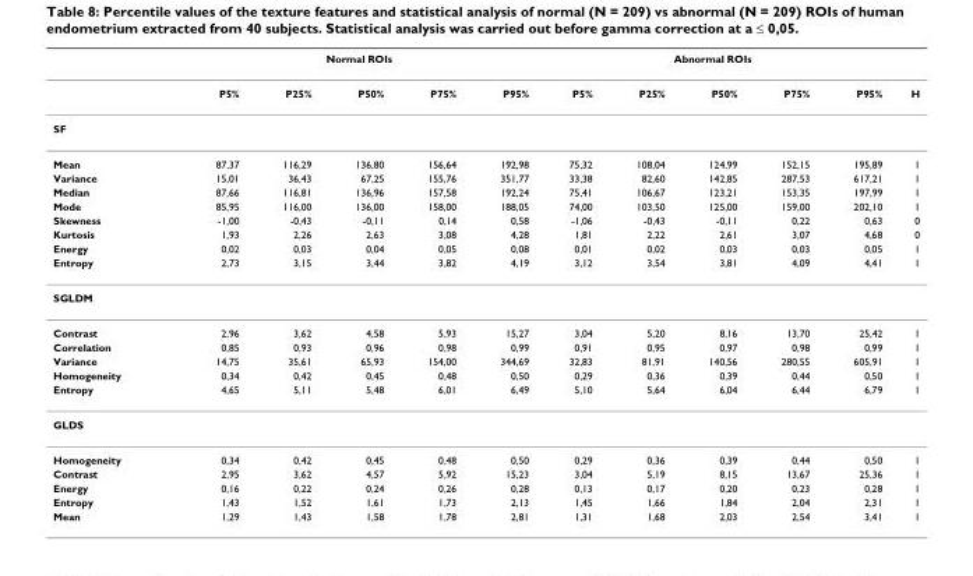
<table><thead><tr><td rowspan="2"></td><td colspan="5">Normal ROIs</td><td colspan="5">Abnormal ROIs</td><td rowspan="2">H</td></tr><tr><td>P5%</td><td>P25%</td><td>P50%</td><td>P75%</td><td>P95%</td><td>P5%</td><td>P25%</td><td>P50%</td><td>P75%</td><td>P95%</td></tr></thead><tbody><tr><td colspan="12">SF</td></tr><tr><td>Mean</td><td>87,37</td><td>116,29</td><td>136,80</td><td>156,64</td><td>192,98</td><td>75,32</td><td>108,04</td><td>124,99</td><td>152,15</td><td>195,89</td><td>1</td></tr><tr><td>Variance</td><td>15,01</td><td>36,43</td><td>67,25</td><td>155,76</td><td>351,77</td><td>33,38</td><td>82,60</td><td>142,85</td><td>287,53</td><td>617,21</td><td>1</td></tr><tr><td>Median</td><td>87,66</td><td>116,81</td><td>136,96</td><td>157,58</td><td>192,24</td><td>75,41</td><td>106,67</td><td>123,21</td><td>153,35</td><td>197,99</td><td>1</td></tr><tr><td>Mode</td><td>85,95</td><td>116,00</td><td>136,00</td><td>158,00</td><td>188,05</td><td>74,00</td><td>103,50</td><td>125,00</td><td>159,00</td><td>202,10</td><td>1</td></tr><tr><td>Skewness</td><td>-1,00</td><td>-0,43</td><td>-0,11</td><td>0,14</td><td>0,58</td><td>-1,06</td><td>-0,43</td><td>-0,11</td><td>0,22</td><td>0,63</td><td>0</td></tr><tr><td>Kurtosis</td><td>1,93</td><td>2,26</td><td>2,63</td><td>3,08</td><td>4,28</td><td>1,81</td><td>2,22</td><td>2,61</td><td>3,07</td><td>4,68</td><td>0</td></tr><tr><td>Energy</td><td>0,02</td><td>0,03</td><td>0,04</td><td>0,05</td><td>0,08</td><td>0,01</td><td>0,02</td><td>0,03</td><td>0,03</td><td>0,05</td><td>1</td></tr><tr><td>Entropy</td><td>2,73</td><td>3,15</td><td>3,44</td><td>3,82</td><td>4,19</td><td>3,12</td><td>3,54</td><td>3,81</td><td>4,09</td><td>4,41</td><td>1</td></tr><tr><td colspan="12">SGLDM</td></tr><tr><td>Contrast</td><td>2,96</td><td>3,62</td><td>4,58</td><td>5,93</td><td>15,27</td><td>3,04</td><td>5,20</td><td>8,16</td><td>13,70</td><td>25,42</td><td>1</td></tr><tr><td>Correlation</td><td>0,85</td><td>0,93</td><td>0,96</td><td>0,98</td><td>0,99</td><td>0,91</td><td>0,95</td><td>0,97</td><td>0,98</td><td>0,99</td><td>1</td></tr><tr><td>Variance</td><td>14,75</td><td>35,61</td><td>65,93</td><td>154,00</td><td>344,69</td><td>32,83</td><td>81,91</td><td>140,56</td><td>280,55</td><td>605,91</td><td>1</td></tr><tr><td>Homogeneity</td><td>0,34</td><td>0,42</td><td>0,45</td><td>0,48</td><td>0,50</td><td>0,29</td><td>0,36</td><td>0,39</td><td>0,44</td><td>0,50</td><td>1</td></tr><tr><td>Entropy</td><td>4,65</td><td>5,11</td><td>5,48</td><td>6,01</td><td>6,49</td><td>5,10</td><td>5,64</td><td>6,04</td><td>6,44</td><td>6,79</td><td>1</td></tr><tr><td colspan="12">GLDS</td></tr><tr><td>Homogeneity</td><td>0,34</td><td>0,42</td><td>0,45</td><td>0,48</td><td>0,50</td><td>0,29</td><td>0,36</td><td>0,39</td><td>0,44</td><td>0,50</td><td>1</td></tr><tr><td>Contrast</td><td>2,95</td><td>3,62</td><td>4,57</td><td>5,92</td><td>15,23</td><td>3,04</td><td>5,19</td><td>8,15</td><td>13,67</td><td>25,36</td><td>1</td></tr><tr><td>Energy</td><td>0,16</td><td>0,22</td><td>0,24</td><td>0,26</td><td>0,28</td><td>0,13</td><td>0,17</td><td>0,20</td><td>0,23</td><td>0,28</td><td>1</td></tr><tr><td>Entropy</td><td>1,43</td><td>1,52</td><td>1,61</td><td>1,73</td><td>2,13</td><td>1,45</td><td>1,66</td><td>1,84</td><td>2,04</td><td>2,31</td><td>1</td></tr><tr><td>Mean</td><td>1,29</td><td>1,43</td><td>1,58</td><td>1,78</td><td>2,81</td><td>1,31</td><td>1,68</td><td>2,03</td><td>2,54</td><td>3,41</td><td>1</td></tr></tbody></table>